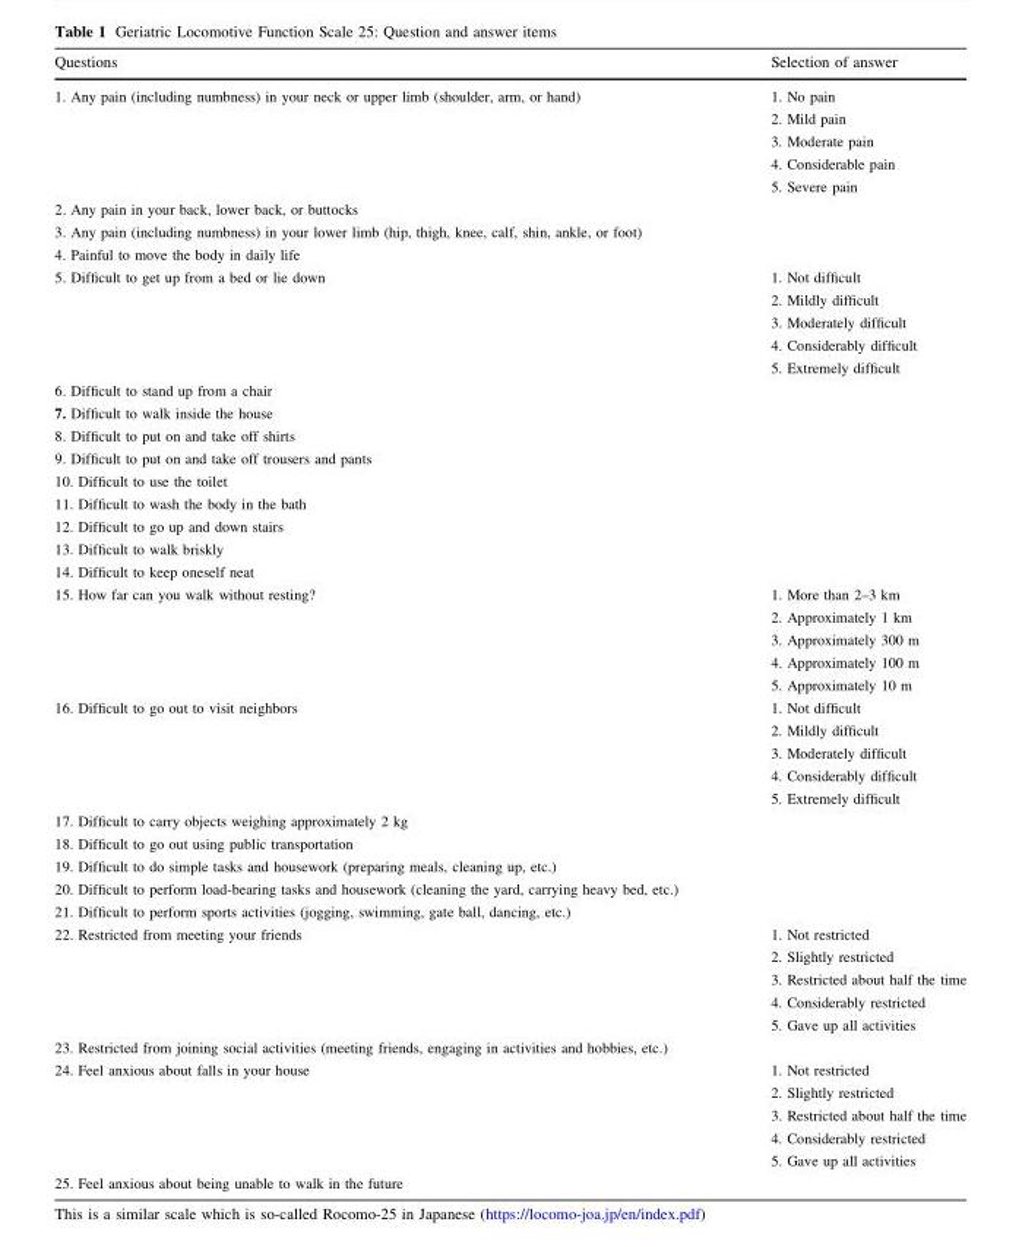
<table><thead><tr><td>Questions</td><td>Selection of answer</td></tr></thead><tbody><tr><td>1. Any pain (including numbness) in your neck or upper limb (shoulder, arm, or hand)</td><td>1. No pain 2. Mild pain 3. Moderate pain 4. Considerable pain 5. Severe pain</td></tr><tr><td colspan="2">2. Any pain in your back, lower back, or buttocks</td></tr><tr><td colspan="2">3. Any pain (including numbness) in your lower limb (hip, thigh, knee, calf, shin, ankle, or foot)</td></tr><tr><td colspan="2">4. Painful to move the body in daily life</td></tr><tr><td>5. Difficult to get up from a bed or lie down</td><td>1. Not difficult 2. Mildly difficult 3. Moderately difficult 4. Considerably difficult 5. Extremely difficult</td></tr><tr><td colspan="2">6. Difficult to stand up from a chair</td></tr><tr><td colspan="2">7. Difficult to walk inside the house</td></tr><tr><td colspan="2">8. Difficult to put on and take off shirts</td></tr><tr><td colspan="2">9. Difficult to put on and take off trousers and pants</td></tr><tr><td colspan="2">10. Difficult to use the toilet</td></tr><tr><td colspan="2">11. Difficult to wash the body in the bath</td></tr><tr><td colspan="2">12. Difficult to go up and down stairs</td></tr><tr><td colspan="2">13. Difficult to walk briskly</td></tr><tr><td colspan="2">14. Difficult to keep oneself neat</td></tr><tr><td>15. How far can you walk without resting?</td><td>1. More than 2–3 km 2. Approximately 1 km 3. Approximately 300 m 4. Approximately 100 m 5. Approximately 10 m</td></tr><tr><td>16. Difficult to go out to visit neighbors</td><td>1. Not difficult 2. Mildly difficult 3. Moderately difficult 4. Considerably difficult 5. Extremely difficult</td></tr><tr><td colspan="2">17. Difficult to carry objects weighing approximately 2 kg</td></tr><tr><td colspan="2">18. Difficult to go out using public transportation</td></tr><tr><td colspan="2">19. Difficult to do simple tasks and housework (preparing meals, cleaning up, etc.)</td></tr><tr><td colspan="2">20. Difficult to perform load-bearing tasks and housework (cleaning the yard, carrying heavy bed, etc.)</td></tr><tr><td colspan="2">21. Difficult to perform sports activities (jogging, swimming, gate ball, dancing, etc.)</td></tr><tr><td>22. Restricted from meeting your friends</td><td>1. Not restricted 2. Slightly restricted 3. Restricted about half the time 4. Considerably restricted 5. Gave up all activities</td></tr><tr><td colspan="2">23. Restricted from joining social activities (meeting friends, engaging in activities and hobbies, etc.)</td></tr><tr><td>24. Feel anxious about falls in your house</td><td>1. Not restricted 2. Slightly restricted 3. Restricted about half the time 4. Considerably restricted 5. Gave up all activities</td></tr><tr><td>25. Feel anxious about being unable to walk in the future</td><td></td></tr></tbody></table>